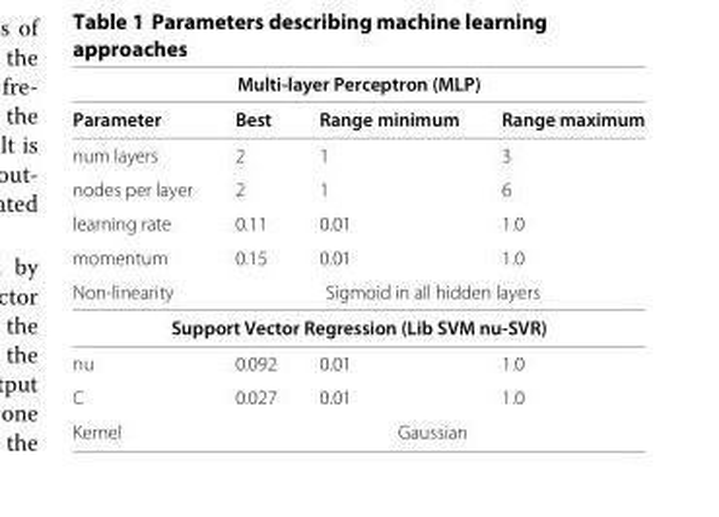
<table><thead><tr><td colspan="4">Multi-layer Perceptron (MLP)</td></tr><tr><td>Parameter</td><td>Best</td><td>Range minimum</td><td>Range maximum</td></tr></thead><tbody><tr><td>num layers</td><td>2</td><td>1</td><td>3</td></tr><tr><td>nodes per layer</td><td>2</td><td>1</td><td>6</td></tr><tr><td>learning rate</td><td>0.11</td><td>0.01</td><td>1.0</td></tr><tr><td>momentum</td><td>0.15</td><td>0.01</td><td>1.0</td></tr><tr><td>Non-linearity</td><td colspan="3">Sigmoid in all hidden layers</td></tr><tr><td colspan="4">Support Vector Regression (Lib SVM nu-SVR)</td></tr><tr><td>nu</td><td>0.092</td><td>0.01</td><td>1.0</td></tr><tr><td>C</td><td>0.027</td><td>0.01</td><td>1.0</td></tr><tr><td>Kernel</td><td colspan="3">Gaussian</td></tr></tbody></table>